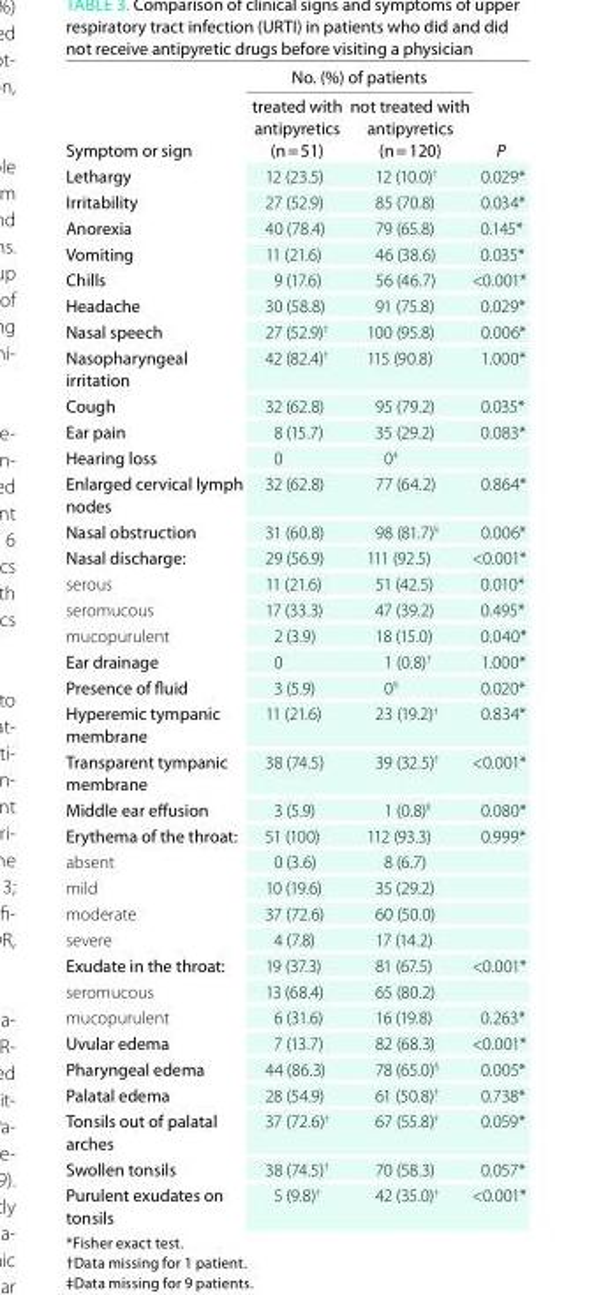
<table><thead><tr><td rowspan="2">Symptom or sign</td><td colspan="2">no. (%) of patients</td><td rowspan="2">P</td></tr><tr><td>treated with antipyretics (n = 51)</td><td>not treated with antipyretics (n = 120)</td></tr></thead><tbody><tr><td>lethargy</td><td>12 (23.5)</td><td>12 (10.0)<sup>†</sup></td><td>0.029*</td></tr><tr><td>irritability</td><td>27 (52.9)</td><td>85 (70.8)</td><td>0.034*</td></tr><tr><td>Anorexia</td><td>40 (78.4)</td><td>79 (65.8)</td><td>0.145*</td></tr><tr><td>Vomiting</td><td>11 (21.6)</td><td>46 (38.6)</td><td>0.035*</td></tr><tr><td>Chills</td><td>9 (17.6)</td><td>56 (46.7)</td><td>&lt;0.001*</td></tr><tr><td>headache</td><td>30 (58.8)</td><td>91 (75.8)</td><td>0.029*</td></tr><tr><td>nasal speech</td><td>27 (52.9)<sup>†</sup></td><td>100 (95.8)</td><td>0.006*</td></tr><tr><td>nasopharyngeal irritation</td><td>42 (82.4)<sup>†</sup></td><td>115 (90.8)</td><td>1.000*</td></tr><tr><td>Cough</td><td>32 (62.8)</td><td>95 (79.2)</td><td>0.035*</td></tr><tr><td>Ear pain</td><td>8 (15.7)</td><td>35 (29.2)</td><td>0.083*</td></tr><tr><td>hearing loss</td><td>0</td><td>0<sup>‡</sup></td><td></td></tr><tr><td>Enlarged cervical lymph nodes</td><td>32 (62.8)</td><td>77 (64.2)</td><td>0.864*</td></tr><tr><td>nasal obstruction</td><td>31 (60.8)</td><td>98 (81.7)<sup>§</sup></td><td>0.006*</td></tr><tr><td>nasal discharge:</td><td>29 (56.9)</td><td>111 (92.5)</td><td>&lt;0.001*</td></tr><tr><td>serous</td><td>11 (21.6)</td><td>51 (42.5)</td><td>0.010*</td></tr><tr><td>seromucous</td><td>17 (33.3)</td><td>47 (39.2)</td><td>0.495*</td></tr><tr><td>mucopurulent</td><td>2 (3.9)</td><td>18 (15.0)</td><td>0.040*</td></tr><tr><td>Ear drainage</td><td>0</td><td>1 (0.8)<sup>†</sup></td><td>1.000*</td></tr><tr><td>Presence of fluid</td><td>3 (5.9)</td><td>0<sup>§</sup></td><td>0.020*</td></tr><tr><td>hyperemic tympanic membrane</td><td>11 (21.6)</td><td>23 (19.2)<sup>†</sup></td><td>0.834*</td></tr><tr><td>Transparent tympanic membrane</td><td>38 (74.5)</td><td>39 (32.5)<sup>†</sup></td><td>&lt;0.001*</td></tr><tr><td>middle ear effusion</td><td>3 (5.9)</td><td>1 (0.8)II</td><td>0.080*</td></tr><tr><td>Erythema of the throat:</td><td>51 (100)</td><td>112 (93.3)</td><td>0.999*</td></tr><tr><td>absent</td><td>0 (3.6)</td><td>8 (6.7)</td><td></td></tr><tr><td>mild</td><td>10 (19.6)</td><td>35 (29.2)</td><td></td></tr><tr><td>moderate</td><td>37 (72.6)</td><td>60 (50.0)</td><td></td></tr><tr><td>severe</td><td>4 (7.8)</td><td>17 (14.2)</td><td></td></tr><tr><td>Exudate in the throat:</td><td>19 (37.3)</td><td>81 (67.5)</td><td>&lt;0.001*</td></tr><tr><td>seromucous</td><td>13 (68.4)</td><td>65 (80.2)</td><td></td></tr><tr><td>mucopurulent</td><td>6 (31.6)</td><td>16 (19.8)</td><td>0.263*</td></tr><tr><td>uvular edema</td><td>7 (13.7)</td><td>82 (68.3)</td><td>&lt;0.001*</td></tr><tr><td>Pharyngeal edema</td><td>44 (86.3)</td><td>78 (65.0)<sup>§</sup></td><td>0.005*</td></tr><tr><td>Palatal edema</td><td>28 (54.9)</td><td>61 (50.8)<sup>†</sup></td><td>0.738*</td></tr><tr><td>Tonsils out of palatal arches</td><td>37 (72.6)<sup>†</sup></td><td>67 (55.8)<sup>†</sup></td><td>0.059*</td></tr><tr><td>Swollen tonsils</td><td>38 (74.5)<sup>†</sup></td><td>70 (58.3)</td><td>0.057*</td></tr><tr><td>Purulent exudates on tonsils</td><td>5 (9.8)<sup>†</sup></td><td>42 (35.0)<sup>†</sup></td><td>&lt;0.001*</td></tr></tbody></table>